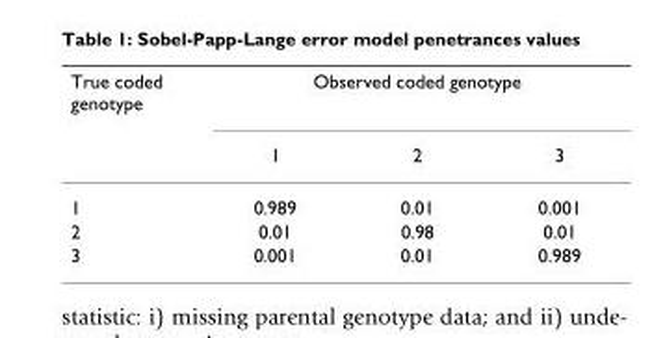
<table><thead><tr><td rowspan="2">True coded genotype</td><td colspan="3">Observed coded genotype</td></tr><tr><td>1</td><td>2</td><td>3</td></tr></thead><tbody><tr><td>1</td><td>0.989</td><td>0.01</td><td>0.001</td></tr><tr><td>2</td><td>0.01</td><td>0.98</td><td>0.01</td></tr><tr><td>3</td><td>0.001</td><td>0.01</td><td>0.989</td></tr></tbody></table>